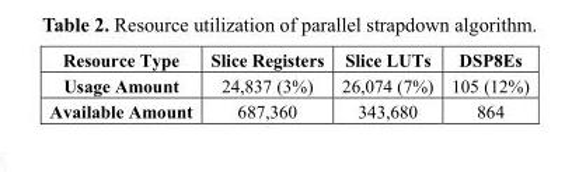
<table><thead><tr><td>Resource Type</td><td>Slice Registers</td><td>Slice LUTs</td><td>DSP8Es</td></tr></thead><tbody><tr><td>Usage Amount</td><td>24,837 (3%)</td><td>26,074 (7%)</td><td>105 (12%)</td></tr><tr><td>Available Amount</td><td>687,360</td><td>343,680</td><td>864</td></tr></tbody></table>